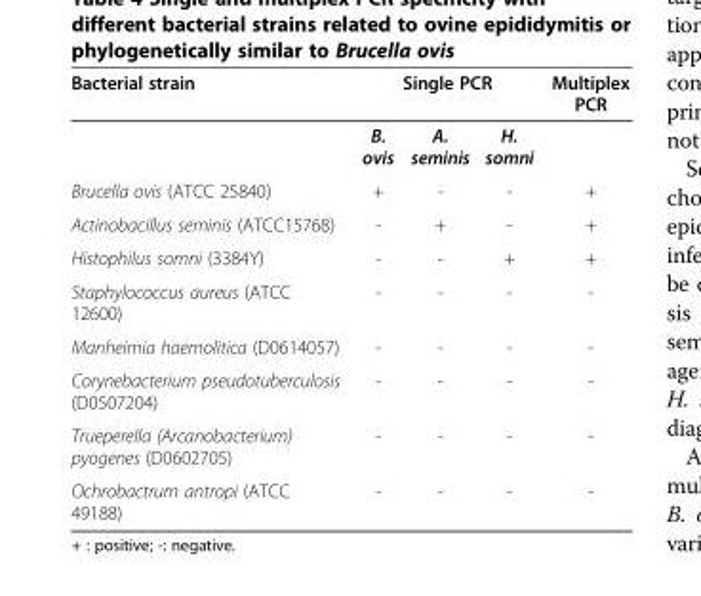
<table><thead><tr><td rowspan="2">Bacterial strain</td><td colspan="3">Single PCR</td><td rowspan="2">Multiplex PCR</td></tr><tr><td>B. ovis</td><td>A. seminis</td><td>H. somni</td></tr></thead><tbody><tr><td>Brucella ovis (ATCC 25840)</td><td>+</td><td>-</td><td>-</td><td>+</td></tr><tr><td>Actinobacillus seminis (ATCC15768)</td><td>-</td><td>+</td><td>-</td><td>+</td></tr><tr><td>Histophilus somni (3384Y)</td><td>-</td><td>-</td><td>+</td><td>+</td></tr><tr><td>Staphylococcus aureus (ATCC 12600)</td><td>-</td><td>-</td><td>-</td><td>-</td></tr><tr><td>Manheimia haemolitica (D0614057)</td><td>-</td><td>-</td><td>-</td><td>-</td></tr><tr><td>Corynebacterium pseudotuberculosis (D0507204)</td><td>-</td><td>-</td><td>-</td><td>-</td></tr><tr><td>Trueperella (Arcanobacterium) pyogenes (D0602705)</td><td>-</td><td>-</td><td>-</td><td>-</td></tr><tr><td>Ochrobactrum antropi (ATCC 49188)</td><td>-</td><td>-</td><td>-</td><td>-</td></tr></tbody></table>